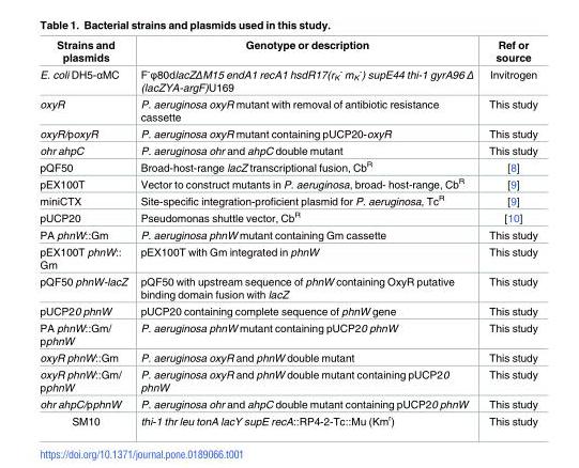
<table><thead><tr><td>Strains and plasmids</td><td>Genotype or description</td><td>Ref or source</td></tr></thead><tbody><tr><td>E. coli DH5-αMC</td><td>F-φ80dlacZΔM15 endA1 recA1 hsdR17(rK - mK -) supE44 thi-1 gyrA96 Δ (lacZYA-argF)U169</td><td>Invitrogen</td></tr><tr><td>oxyR</td><td>P. aeruginosa oxyR mutant with removal of antibiotic resistance cassette</td><td>This study</td></tr><tr><td>oxyR/poxyR</td><td>P. aeruginosa oxyR mutant containing pUCP20-oxyR</td><td>This study</td></tr><tr><td>ohr ahpC</td><td>P. aeruginosa ohr and ahpC double mutant</td><td>This study</td></tr><tr><td>pQF50</td><td>Broad-host-range lacZ transcriptional fusion, Cb<sup>R</sup></td><td>[8]</td></tr><tr><td>pEX100T</td><td>Vector to construct mutants in P. aeruginosa, broad- host-range, Cb<sup>R</sup></td><td>[9]</td></tr><tr><td>miniCTX</td><td>Site-specific integration-proficient plasmid for P. aeruginosa, Tc<sup>R</sup></td><td>[9]</td></tr><tr><td>pUCP20</td><td>Pseudomonas shuttle vector, Cb<sup>R</sup></td><td>[10]</td></tr><tr><td>PA phnW::Gm</td><td>P. aeruginosa phnW mutant containing Gm cassette</td><td>This study</td></tr><tr><td>pEX100T phnW:: Gm</td><td>pEX100T with Gm integrated in phnW</td><td>This study</td></tr><tr><td>pQF50 phnW-lacZ</td><td>pQF50 with upstream sequence of phnW containing OxyR putative binding domain fusion with lacZ</td><td>This study</td></tr><tr><td>pUCP20 phnW</td><td>pUCP20 containing complete sequence of phnW gene</td><td>This study</td></tr><tr><td>PA phnW::Gm/ pphnW</td><td>P. aeruginosa phnW mutant containing pUCP20 phnW</td><td>This study</td></tr><tr><td>oxyR phnW::Gm</td><td>P. aeruginosa oxyR and phnW double mutant</td><td>This study</td></tr><tr><td>oxyR phnW::Gm/ pphnW</td><td>P. aeruginosa oxyR and phnW double mutant containing pUCP20 phnW</td><td>This study</td></tr><tr><td>ohr ahpC/pphnW</td><td>P. aeruginosa ohr and ahpC double mutant containing pUCP20 phnW</td><td>This study</td></tr><tr><td>SM10</td><td>thi-1 thr leu tonA lacY supE recA::RP4-2-Tc::Mu (Km<sup>r</sup>)</td><td>This study</td></tr></tbody></table>